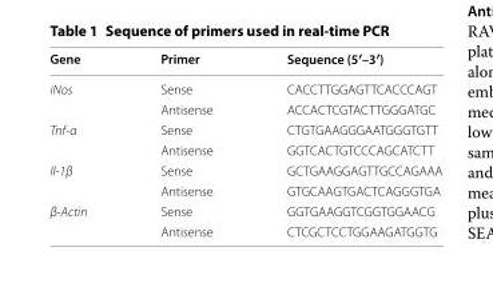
<table><thead><tr><td>Gene</td><td>Primer</td><td>Sequence (5′–3′)</td></tr></thead><tbody><tr><td rowspan="2">iNos</td><td>Sense</td><td>CACCTTGGAGTTCACCCAGT</td></tr><tr><td>Antisense</td><td>ACCACTCGTACTTGGGATGC</td></tr><tr><td rowspan="2">Tnf‑α</td><td>Sense</td><td>CTGTGAAGGGAATGGGTGTT</td></tr><tr><td>Antisense</td><td>GGTCACTGTCCCAGCATCTT</td></tr><tr><td rowspan="2">Il‑1β</td><td>Sense</td><td>GCTGAAGGAGTTGCCAGAAA</td></tr><tr><td>Antisense</td><td>GTGCAAGTGACTCAGGGTGA</td></tr><tr><td rowspan="2">β‑Actin</td><td>Sense</td><td>GGTGAAGGTCGGTGGAACG</td></tr><tr><td>Antisense</td><td>CTCGCTCCTGGAAGATGGTG</td></tr></tbody></table>